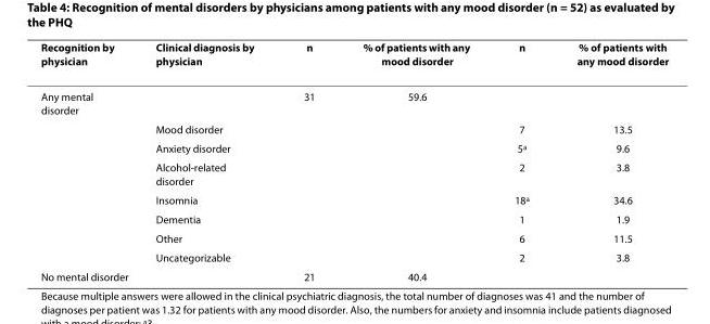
<table><thead><tr><td>Recognition by physician</td><td>Clinical diagnosis by physician</td><td>n</td><td>% of patients with any mood disorder</td><td>n</td><td>% of patients with any mood disorder</td></tr></thead><tbody><tr><td rowspan="8">Any mental disorder</td><td></td><td>31</td><td>59.6</td><td></td><td></td></tr><tr><td>Mood disorder</td><td></td><td></td><td>7</td><td>13.5</td></tr><tr><td>Anxiety disorder</td><td></td><td></td><td>5<sup>a</sup></td><td>9.6</td></tr><tr><td>Alcohol-related disorder</td><td></td><td></td><td>2</td><td>3.8</td></tr><tr><td>Insomnia</td><td></td><td></td><td>18<sup>a</sup></td><td>34.6</td></tr><tr><td>Dementia</td><td></td><td></td><td>1</td><td>1.9</td></tr><tr><td>Other</td><td></td><td></td><td>6</td><td>11.5</td></tr><tr><td>Uncategorizable</td><td></td><td></td><td>2</td><td>3.8</td></tr><tr><td>No mental disorder</td><td></td><td>21</td><td>40.4</td><td></td><td></td></tr></tbody></table>